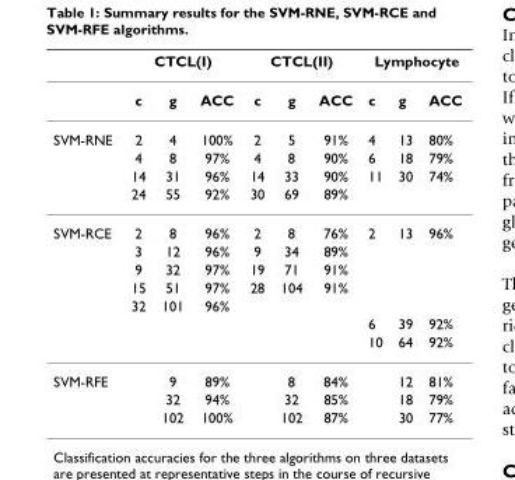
<table><thead><tr><td rowspan="2"></td><td colspan="3">CTCL(I)</td><td colspan="3">CTCL(II)</td><td colspan="3">Lymphocyte</td></tr><tr><td>c</td><td>g</td><td>ACC</td><td>c</td><td>g</td><td>ACC</td><td>c</td><td>g</td><td>ACC</td></tr></thead><tbody><tr><td rowspan="4">SVM-RNE</td><td>2</td><td>4</td><td>100%</td><td>2</td><td>5</td><td>91%</td><td>4</td><td>13</td><td>80%</td></tr><tr><td>4</td><td>8</td><td>97%</td><td>4</td><td>8</td><td>90%</td><td>6</td><td>18</td><td>79%</td></tr><tr><td>14</td><td>31</td><td>96%</td><td>14</td><td>33</td><td>90%</td><td>11</td><td>30</td><td>74%</td></tr><tr><td>24</td><td>55</td><td>92%</td><td>30</td><td>69</td><td>89%</td><td></td><td></td><td></td></tr><tr><td rowspan="7">SVM-RCE</td><td>2</td><td>8</td><td>96%</td><td>2</td><td>8</td><td>76%</td><td>2</td><td>13</td><td>96%</td></tr><tr><td>3</td><td>12</td><td>96%</td><td>9</td><td>34</td><td>89%</td><td></td><td></td><td></td></tr><tr><td>9</td><td>32</td><td>97%</td><td>19</td><td>71</td><td>91%</td><td></td><td></td><td></td></tr><tr><td>15</td><td>51</td><td>97%</td><td>28</td><td>104</td><td>91%</td><td></td><td></td><td></td></tr><tr><td>32</td><td>101</td><td>96%</td><td></td><td></td><td></td><td></td><td></td><td></td></tr><tr><td></td><td></td><td></td><td></td><td></td><td></td><td>6</td><td>39</td><td>92%</td></tr><tr><td></td><td></td><td></td><td></td><td></td><td></td><td>10</td><td>64</td><td>92%</td></tr><tr><td rowspan="3">SVM-RFE</td><td></td><td>9</td><td>89%</td><td></td><td>8</td><td>84%</td><td></td><td>12</td><td>81%</td></tr><tr><td></td><td>32</td><td>94%</td><td></td><td>32</td><td>85%</td><td></td><td>18</td><td>79%</td></tr><tr><td></td><td>102</td><td>100%</td><td></td><td>102</td><td>87%</td><td></td><td>30</td><td>77%</td></tr></tbody></table>